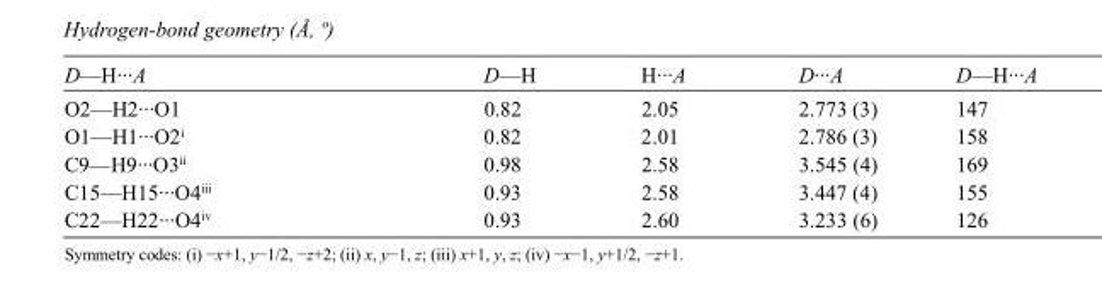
<table><tbody><tr><td>D—H···A</td><td>D—H</td><td>H···A</td><td>D···A</td><td>D—H···A</td></tr><tr><td>O2—H2···O1</td><td>0.82</td><td>2.05</td><td>2.773 (3)</td><td>147</td></tr><tr><td>O1—H1···O2<sup>i</sup></td><td>0.82</td><td>2.01</td><td>2.786 (3)</td><td>158</td></tr><tr><td>C9—H9···O3<sup>ii</sup></td><td>0.98</td><td>2.58</td><td>3.545 (4)</td><td>169</td></tr><tr><td>C15—H15···O4<sup>iii</sup></td><td>0.93</td><td>2.58</td><td>3.447 (4)</td><td>155</td></tr><tr><td>C22—H22···O4<sup>iv</sup></td><td>0.93</td><td>2.60</td><td>3.233 (6)</td><td>126</td></tr></tbody></table>